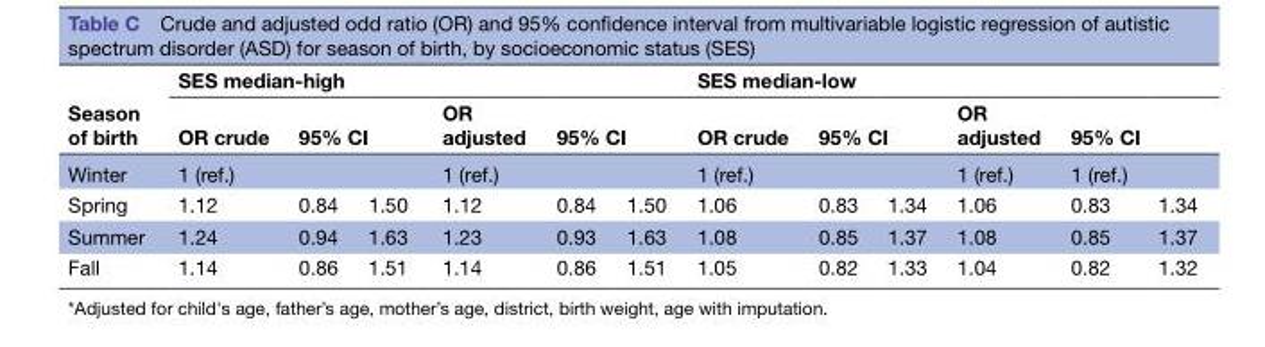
<table><thead><tr><td rowspan="3">Season of birth Winter</td><td colspan="6">SES median-high</td><td colspan="6">SES median-low</td></tr><tr><td rowspan="2">OR crude 1 (ref.)</td><td colspan="2">95% CI</td><td rowspan="2">OR adjusted 1 (ref.)</td><td colspan="2">95% CI</td><td rowspan="2">OR crude 1 (ref.)</td><td colspan="2">95% CI</td><td rowspan="2">OR adjusted 1 (ref.)</td><td colspan="2">95% CI</td></tr><tr><td></td><td></td><td></td><td></td><td></td><td></td><td>1 (ref.)</td><td></td></tr></thead><tbody><tr><td>Spring</td><td>1.12</td><td>0.84</td><td>1.50</td><td>1.12</td><td>0.84</td><td>1.50</td><td>1.06</td><td>0.83</td><td>1.34</td><td>1.06</td><td>0.83</td><td>1.34</td></tr><tr><td>Summer</td><td>1.24</td><td>0.94</td><td>1.63</td><td>1.23</td><td>0.93</td><td>1.63</td><td>1.08</td><td>0.85</td><td>1.37</td><td>1.08</td><td>0.85</td><td>1.37</td></tr><tr><td>Fall</td><td>1.14</td><td>0.86</td><td>1.51</td><td>1.14</td><td>0.86</td><td>1.51</td><td>1.05</td><td>0.82</td><td>1.33</td><td>1.04</td><td>0.82</td><td>1.32</td></tr></tbody></table>